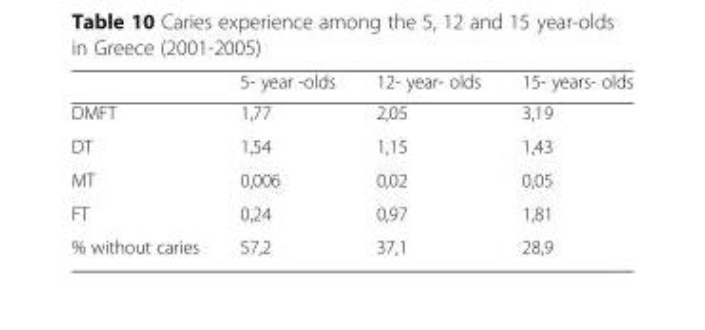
<table><thead><tr><td></td><td>5- year -olds</td><td>12- year- olds</td><td>15- years- olds</td></tr></thead><tbody><tr><td>DMFT</td><td>1,77</td><td>2,05</td><td>3,19</td></tr><tr><td>DT</td><td>1,54</td><td>1,15</td><td>1,43</td></tr><tr><td>MT</td><td>0,006</td><td>0,02</td><td>0,05</td></tr><tr><td>FT</td><td>0,24</td><td>0,97</td><td>1,81</td></tr><tr><td>% without caries</td><td>57,2</td><td>37,1</td><td>28,9</td></tr></tbody></table>